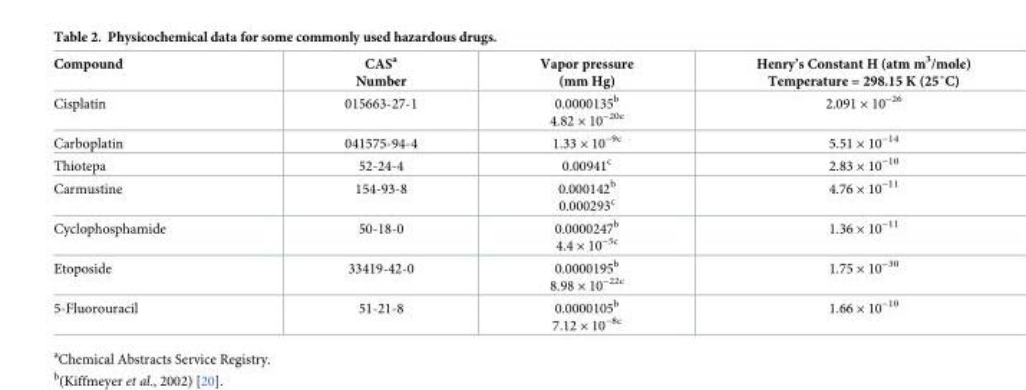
<table><thead><tr><td>Compound</td><td>CAS<sup>a</sup> Number</td><td>Vapor pressure (mm Hg)</td><td>Henry’s Constant H (atm m3/mole) Temperature = 298.15 K (25˚C)</td></tr></thead><tbody><tr><td>Cisplatin</td><td>015663-27-1</td><td>0.0000135<sup>b</sup> 4.82 × 10<sup>−20c</sup></td><td>2.091 × 10<sup>−26</sup></td></tr><tr><td>Carboplatin</td><td>041575-94-4</td><td>1.33 × 10<sup>−9c</sup></td><td>5.51 × 10<sup>−14</sup></td></tr><tr><td>Thiotepa</td><td>52-24-4</td><td>0.00941<sup>c</sup></td><td>2.83 × 10<sup>−10</sup></td></tr><tr><td>Carmustine</td><td>154-93-8</td><td>0.000142<sup>b</sup> 0.000293<sup>c</sup></td><td>4.76 × 10<sup>−11</sup></td></tr><tr><td>Cyclophosphamide</td><td>50-18-0</td><td>0.0000247<sup>b</sup> 4.4 × 10<sup>−5c</sup></td><td>1.36 × 10<sup>−11</sup></td></tr><tr><td>Etoposide</td><td>33419-42-0</td><td>0.0000195<sup>b</sup> 8.98 × 10<sup>−22c</sup></td><td>1.75 × 10<sup>−30</sup></td></tr><tr><td>5-Fluorouracil</td><td>51-21-8</td><td>0.0000105<sup>b</sup> 7.12 × 10<sup>−8c</sup></td><td>1.66 × 10<sup>−10</sup></td></tr></tbody></table>